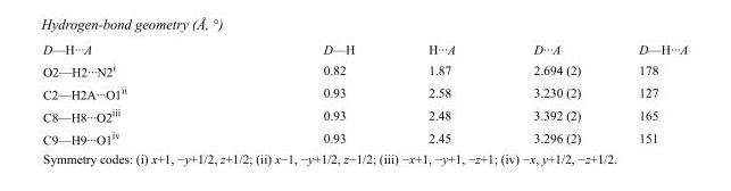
<table><tbody><tr><td>D—H···A</td><td>D—H</td><td>H···A</td><td>D···A</td><td>D—H···A</td></tr><tr><td>O2—H2···N2<sup>i</sup></td><td>0.82</td><td>1.87</td><td>2.694 (2)</td><td>178</td></tr><tr><td>C2—H2A···O1<sup>ii</sup></td><td>0.93</td><td>2.58</td><td>3.230 (2)</td><td>127</td></tr><tr><td>C8—H8···O2<sup>iii</sup></td><td>0.93</td><td>2.48</td><td>3.392 (2)</td><td>165</td></tr><tr><td>C9—H9···O1<sup>iv</sup></td><td>0.93</td><td>2.45</td><td>3.296 (2)</td><td>151</td></tr></tbody></table>